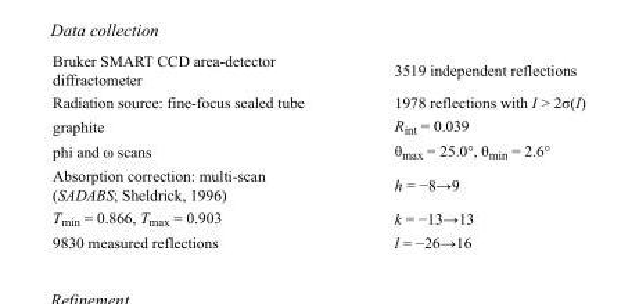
<table><tbody><tr><td>Bruker SMART CCD area-detector diffractometer</td><td>3519 independent reflections</td></tr><tr><td>Radiation source: fine-focus sealed tube</td><td>1978 reflections with I &gt; 2σ(I)</td></tr><tr><td>graphite</td><td>R<sub>int</sub> = 0.039</td></tr><tr><td>phi and ω scans</td><td>θ<sub>max</sub> = 25.0°, θ<sub>min</sub> = 2.6°</td></tr><tr><td>Absorption correction: multi-scan (SADABS; Sheldrick, 1996)</td><td>h = −8→9</td></tr><tr><td>T<sub>min</sub> = 0.866, T<sub>max</sub> = 0.903</td><td>k = −13→13</td></tr><tr><td>9830 measured reflections</td><td>l = −26→16</td></tr></tbody></table>